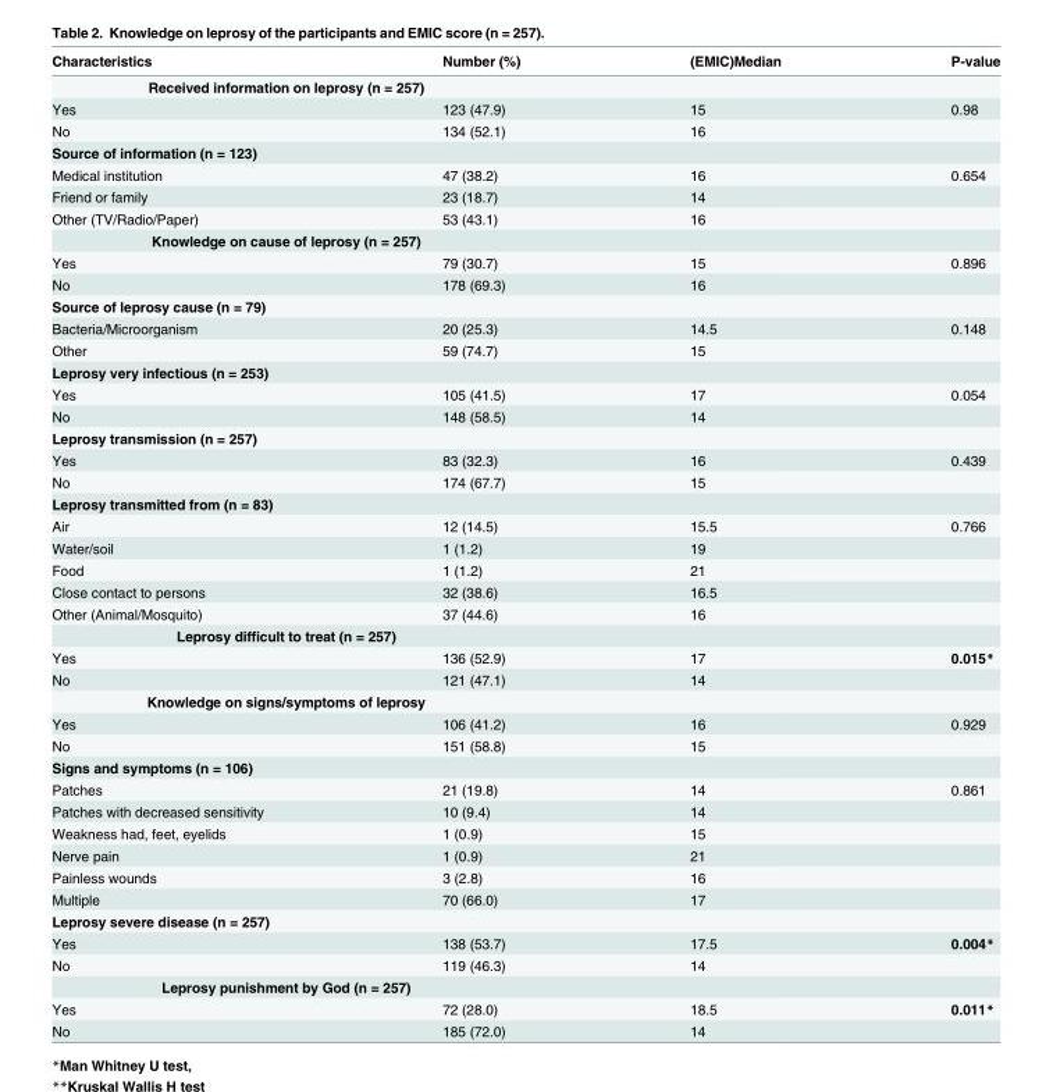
<table><thead><tr><td>Characteristics</td><td>Number (%)</td><td>(EMIC)Median</td><td>P-value</td></tr></thead><tbody><tr><td colspan="4">Received information on leprosy (n = 257)</td></tr><tr><td>Yes</td><td>123 (47.9)</td><td>15</td><td>0.98</td></tr><tr><td>No</td><td>134 (52.1)</td><td>16</td><td></td></tr><tr><td colspan="4">Source of information (n = 123)</td></tr><tr><td>Medical institution</td><td>47 (38.2)</td><td>16</td><td>0.654</td></tr><tr><td>Friend or family</td><td>23 (18.7)</td><td>14</td><td></td></tr><tr><td>Other (TV/Radio/Paper)</td><td>53 (43.1)</td><td>16</td><td></td></tr><tr><td colspan="4">Knowledge on cause of leprosy (n = 257)</td></tr><tr><td>Yes</td><td>79 (30.7)</td><td>15</td><td>0.896</td></tr><tr><td>No</td><td>178 (69.3)</td><td>16</td><td></td></tr><tr><td colspan="4">Source of leprosy cause (n = 79)</td></tr><tr><td>Bacteria/Microorganism</td><td>20 (25.3)</td><td>14.5</td><td>0.148</td></tr><tr><td>Other</td><td>59 (74.7)</td><td>15</td><td></td></tr><tr><td colspan="4">Leprosy very infectious (n = 253)</td></tr><tr><td>Yes</td><td>105 (41.5)</td><td>17</td><td>0.054</td></tr><tr><td>No</td><td>148 (58.5)</td><td>14</td><td></td></tr><tr><td colspan="4">Leprosy transmission (n = 257)</td></tr><tr><td>Yes</td><td>83 (32.3)</td><td>16</td><td>0.439</td></tr><tr><td>No</td><td>174 (67.7)</td><td>15</td><td></td></tr><tr><td colspan="4">Leprosy transmitted from (n = 83)</td></tr><tr><td>Air</td><td>12 (14.5)</td><td>15.5</td><td>0.766</td></tr><tr><td>Water/soil</td><td>1 (1.2)</td><td>19</td><td></td></tr><tr><td>Food</td><td>1 (1.2)</td><td>21</td><td></td></tr><tr><td>Close contact to persons</td><td>32 (38.6)</td><td>16.5</td><td></td></tr><tr><td>Other (Animal/Mosquito)</td><td>37 (44.6)</td><td>16</td><td></td></tr><tr><td colspan="4">Leprosy difficult to treat (n = 257)</td></tr><tr><td>Yes</td><td>136 (52.9)</td><td>17</td><td>0.015*</td></tr><tr><td>No</td><td>121 (47.1)</td><td>14</td><td></td></tr><tr><td colspan="4">Knowledge on signs/symptoms of leprosy</td></tr><tr><td>Yes</td><td>106 (41.2)</td><td>16</td><td>0.929</td></tr><tr><td>No</td><td>151 (58.8)</td><td>15</td><td></td></tr><tr><td colspan="4">Signs and symptoms (n = 106)</td></tr><tr><td>Patches</td><td>21 (19.8)</td><td>14</td><td>0.861</td></tr><tr><td>Patches with decreased sensitivity</td><td>10 (9.4)</td><td>14</td><td></td></tr><tr><td>Weakness had, feet, eyelids</td><td>1 (0.9)</td><td>15</td><td></td></tr><tr><td>Nerve pain</td><td>1 (0.9)</td><td>21</td><td></td></tr><tr><td>Painless wounds</td><td>3 (2.8)</td><td>16</td><td></td></tr><tr><td>Multiple</td><td>70 (66.0)</td><td>17</td><td></td></tr><tr><td colspan="4">Leprosy severe disease (n = 257)</td></tr><tr><td>Yes</td><td>138 (53.7)</td><td>17.5</td><td>0.004*</td></tr><tr><td>No</td><td>119 (46.3)</td><td>14</td><td></td></tr><tr><td colspan="4">Leprosy punishment by God (n = 257)</td></tr><tr><td>Yes</td><td>72 (28.0)</td><td>18.5</td><td>0.011*</td></tr><tr><td>No</td><td>185 (72.0)</td><td>14</td><td></td></tr></tbody></table>